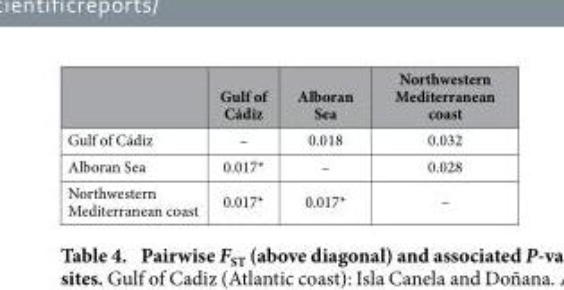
<table><thead><tr><td></td><td>Gulf of Cádiz</td><td>Alboran Sea</td><td>Northwestern Mediterranean coast</td></tr></thead><tbody><tr><td>Gulf of Cádiz</td><td>–</td><td>0.018</td><td>0.032</td></tr><tr><td>Alboran Sea</td><td>0.017*</td><td>–</td><td>0.028</td></tr><tr><td>Northwestern Mediterranean coast</td><td>0.017*</td><td>0.017*</td><td>–</td></tr></tbody></table>